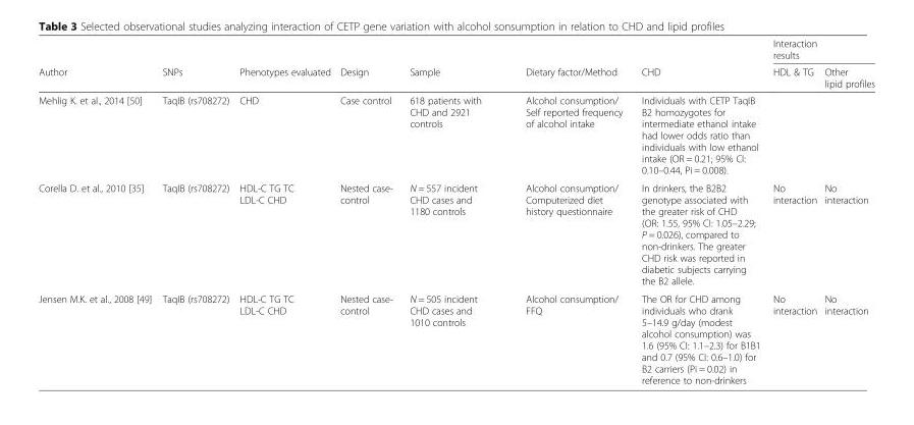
<table><thead><tr><td rowspan="2">Author</td><td rowspan="2">SNPs</td><td rowspan="2">Phenotypes evaluated</td><td rowspan="2">Design</td><td rowspan="2">Sample</td><td rowspan="2">Dietary factor/Method</td><td rowspan="2">CHD</td><td rowspan="2">Interaction results HDL &amp; TG</td><td rowspan="2">Other lipid profiles</td></tr><tr></tr></thead><tbody><tr><td>Mehlig K. et al., 2014 [50]</td><td>TaqIB (rs708272)</td><td>CHD</td><td>Case control</td><td>618 patients with CHD and 2921 controls</td><td>Alcohol consumption/ Self reported frequency of alcohol intake</td><td>Individuals with CETP TaqIB B2 homozygotes for intermediate ethanol intake had lower odds ratio than individuals with low ethanol intake (OR = 0.21; 95% CI: 0.10–0.44, Pi = 0.008).</td><td></td><td></td></tr><tr><td>Corella D. et al., 2010 [35]</td><td>TaqIB (rs708272)</td><td>HDL-C TG TC LDL-C CHD</td><td>Nested case- control</td><td>N = 557 incident CHD cases and 1180 controls</td><td>Alcohol consumption/ Computerized diet history questionnaire</td><td>In drinkers, the B2B2 genotype associated with the greater risk of CHD (OR: 1.55, 95% CI: 1.05–2.29; P = 0.026), compared to non-drinkers. The greater CHD risk was reported in diabetic subjects carrying the B2 allele.</td><td>No interaction</td><td>No interaction</td></tr><tr><td>Jensen M.K. et al., 2008 [49]</td><td>TaqIB (rs708272)</td><td>HDL-C TG TC LDL-C CHD</td><td>Nested case- control</td><td>N = 505 incident CHD cases and 1010 controls</td><td>Alcohol consumption/ FFQ</td><td>The OR for CHD among individuals who drank 5–14.9 g/day (modest alcohol consumption) was 1.6 (95% CI: 1.1–2.3) for B1B1 and 0.7 (95% CI: 0.6–1.0) for B2 carriers (Pi = 0.02) in reference to non-drinkers</td><td>No interaction</td><td>No interaction</td></tr></tbody></table>